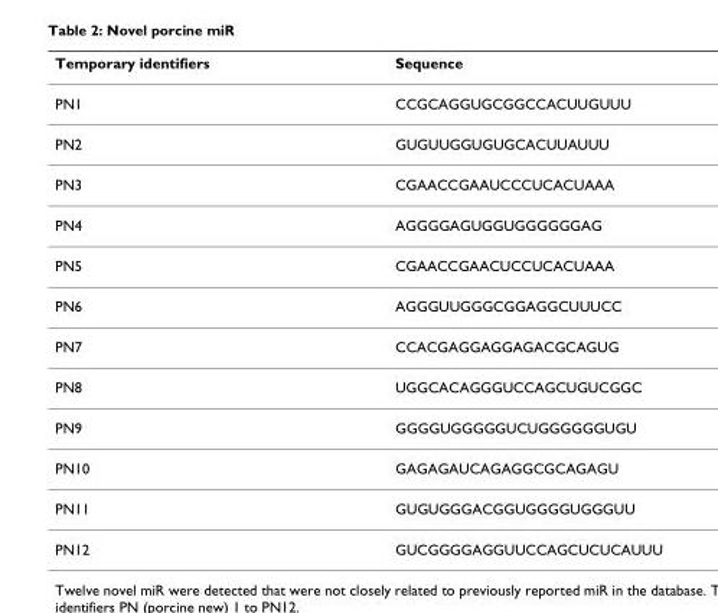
<table><thead><tr><td>Temporary identifiers</td><td>Sequence</td></tr></thead><tbody><tr><td>PN1</td><td>CCGCAGGUGCGGCCACUUGUUU</td></tr><tr><td>PN2</td><td>GUGUUGGUGUGCACUUAUUU</td></tr><tr><td>PN3</td><td>CGAACCGAAUCCCUCACUAAA</td></tr><tr><td>PN4</td><td>AGGGGAGUGGUGGGGGGAG</td></tr><tr><td>PN5</td><td>CGAACCGAACUCCUCACUAAA</td></tr><tr><td>PN6</td><td>AGGGUUGGGCGGAGGCUUUCC</td></tr><tr><td>PN7</td><td>CCACGAGGAGGAGACGCAGUG</td></tr><tr><td>PN8</td><td>UGGCACAGGGUCCAGCUGUCGGC</td></tr><tr><td>PN9</td><td>GGGGUGGGGGUCUGGGGGGUGU</td></tr><tr><td>PN10</td><td>GAGAGAUCAGAGGCGCAGAGU</td></tr><tr><td>PN11</td><td>GUGUGGGACGGUGGGGUGGGUU</td></tr><tr><td>PN12</td><td>GUCGGGGAGGUUCCAGCUCUCAUUU</td></tr></tbody></table>